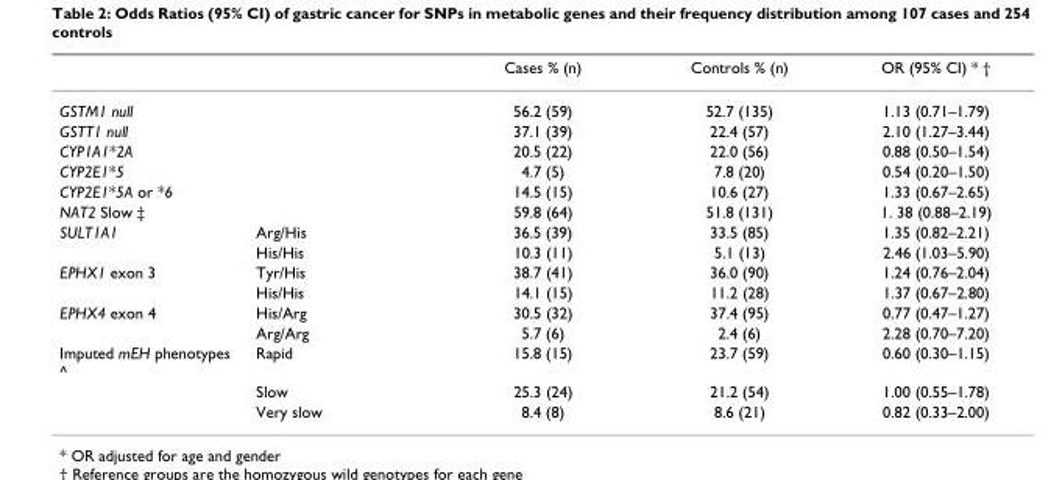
<table><thead><tr><td></td><td></td><td>Cases % (n)</td><td>Controls % (n)</td><td>OR (95% CI) * †</td></tr></thead><tbody><tr><td>GSTM1 null</td><td></td><td>56.2 (59)</td><td>52.7 (135)</td><td>1.13 (0.71–1.79)</td></tr><tr><td>GSTT1 null</td><td></td><td>37.1 (39)</td><td>22.4 (57)</td><td>2.10 (1.27–3.44)</td></tr><tr><td>CYP1A1*2A</td><td></td><td>20.5 (22)</td><td>22.0 (56)</td><td>0.88 (0.50–1.54)</td></tr><tr><td>CYP2E1*5</td><td></td><td>4.7 (5)</td><td>7.8 (20)</td><td>0.54 (0.20–1.50)</td></tr><tr><td>CYP2E1*5A or *6</td><td></td><td>14.5 (15)</td><td>10.6 (27)</td><td>1.33 (0.67–2.65)</td></tr><tr><td>NAT2 Slow ‡</td><td></td><td>59.8 (64)</td><td>51.8 (131)</td><td>1. 38 (0.88–2.19)</td></tr><tr><td rowspan="2">SULT1A1</td><td>Arg/His</td><td>36.5 (39)</td><td>33.5 (85)</td><td>1.35 (0.82–2.21)</td></tr><tr><td>His/His</td><td>10.3 (11)</td><td>5.1 (13)</td><td>2.46 (1.03–5.90)</td></tr><tr><td rowspan="2">EPHX1 exon 3</td><td>Tyr/His</td><td>38.7 (41)</td><td>36.0 (90)</td><td>1.24 (0.76–2.04)</td></tr><tr><td>His/His</td><td>14.1 (15)</td><td>11.2 (28)</td><td>1.37 (0.67–2.80)</td></tr><tr><td rowspan="2">EPHX4 exon 4</td><td>His/Arg</td><td>30.5 (32)</td><td>37.4 (95)</td><td>0.77 (0.47–1.27)</td></tr><tr><td>Arg/Arg</td><td>5.7 (6)</td><td>2.4 (6)</td><td>2.28 (0.70–7.20)</td></tr><tr><td rowspan="3">Imputed mEH phenotypes ^</td><td>Rapid</td><td>15.8 (15)</td><td>23.7 (59)</td><td>0.60 (0.30–1.15)</td></tr><tr><td>Slow</td><td>25.3 (24)</td><td>21.2 (54)</td><td>1.00 (0.55–1.78)</td></tr><tr><td>Very slow</td><td>8.4 (8)</td><td>8.6 (21)</td><td>0.82 (0.33–2.00)</td></tr></tbody></table>